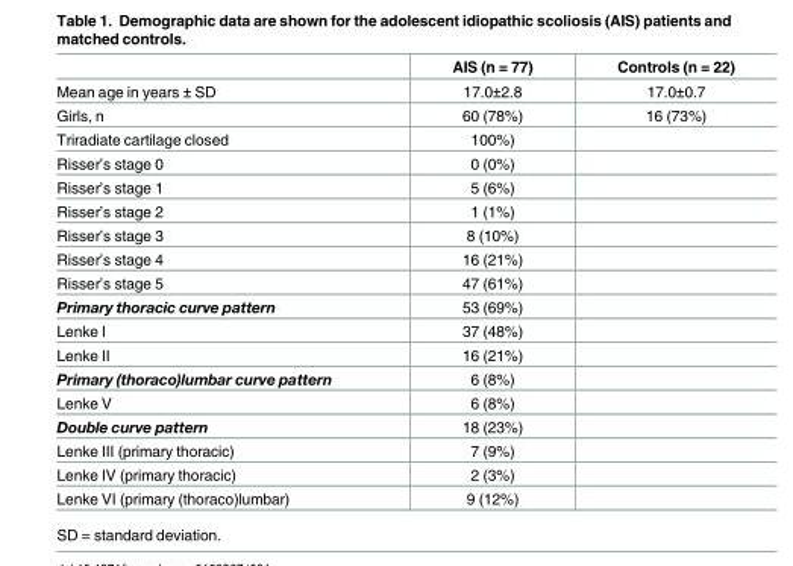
<table><thead><tr><td></td><td>AIS (n = 77)</td><td>Controls (n = 22)</td></tr></thead><tbody><tr><td>Mean age in years ± SD</td><td>17.0±2.8</td><td>17.0±0.7</td></tr><tr><td>Girls, n</td><td>60 (78%)</td><td>16 (73%)</td></tr><tr><td>Triradiate cartilage closed</td><td>100%)</td><td></td></tr><tr><td>Risser’s stage 0</td><td>0 (0%)</td><td></td></tr><tr><td>Risser’s stage 1</td><td>5 (6%)</td><td></td></tr><tr><td>Risser’s stage 2</td><td>1 (1%)</td><td></td></tr><tr><td>Risser’s stage 3</td><td>8 (10%)</td><td></td></tr><tr><td>Risser’s stage 4</td><td>16 (21%)</td><td></td></tr><tr><td>Risser’s stage 5</td><td>47 (61%)</td><td></td></tr><tr><td>Primary thoracic curve pattern</td><td>53 (69%)</td><td></td></tr><tr><td>Lenke I</td><td>37 (48%)</td><td></td></tr><tr><td>Lenke II</td><td>16 (21%)</td><td></td></tr><tr><td>Primary (thoraco)lumbar curve pattern</td><td>6 (8%)</td><td></td></tr><tr><td>Lenke V</td><td>6 (8%)</td><td></td></tr><tr><td>Double curve pattern</td><td>18 (23%)</td><td></td></tr><tr><td>Lenke III (primary thoracic)</td><td>7 (9%)</td><td></td></tr><tr><td>Lenke IV (primary thoracic)</td><td>2 (3%)</td><td></td></tr><tr><td>Lenke VI (primary (thoraco)lumbar)</td><td>9 (12%)</td><td></td></tr></tbody></table>